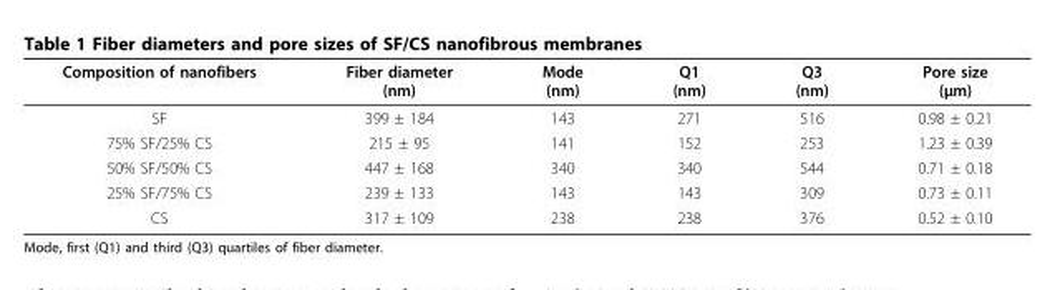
<table><thead><tr><td>Composition of nanofibers</td><td>Fiber diameter (nm)</td><td>Mode (nm)</td><td>Q1 (nm)</td><td>Q3 (nm)</td><td>Pore size (μm)</td></tr></thead><tbody><tr><td>SF</td><td>399 ± 184</td><td>143</td><td>271</td><td>516</td><td>0.98 ± 0.21</td></tr><tr><td>75% SF/25% CS</td><td>215 ± 95</td><td>141</td><td>152</td><td>253</td><td>1.23 ± 0.39</td></tr><tr><td>50% SF/50% CS</td><td>447 ± 168</td><td>340</td><td>340</td><td>544</td><td>0.71 ± 0.18</td></tr><tr><td>25% SF/75% CS</td><td>239 ± 133</td><td>143</td><td>143</td><td>309</td><td>0.73 ± 0.11</td></tr><tr><td>CS</td><td>317 ± 109</td><td>238</td><td>238</td><td>376</td><td>0.52 ± 0.10</td></tr></tbody></table>